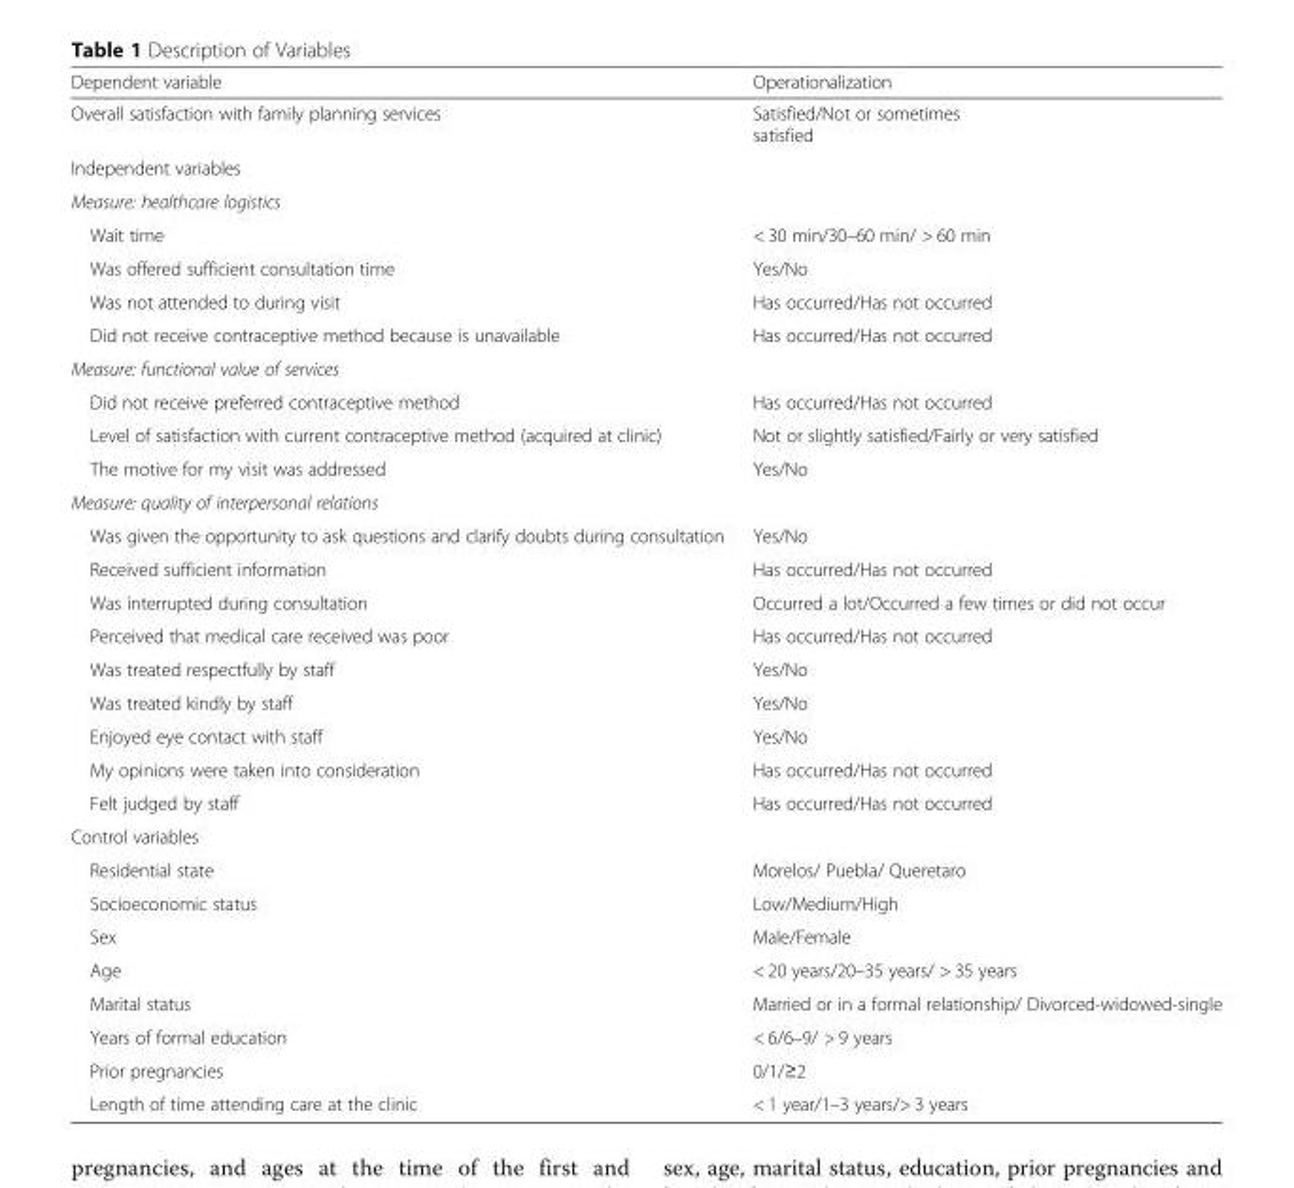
<table><thead><tr><td>Dependent variable</td><td>Operationalization</td></tr></thead><tbody><tr><td>Overall satisfaction with family planning services</td><td>Satisfied/Not or sometimes satisfied</td></tr><tr><td colspan="2">Independent variables</td></tr><tr><td colspan="2">Measure: healthcare logistics</td></tr><tr><td>Wait time</td><td>&lt; 30 min/30–60 min/ &gt; 60 min</td></tr><tr><td>Was offered sufficient consultation time</td><td>Yes/No</td></tr><tr><td>Was not attended to during visit</td><td>Has occurred/Has not occurred</td></tr><tr><td>Did not receive contraceptive method because is unavailable</td><td>Has occurred/Has not occurred</td></tr><tr><td colspan="2">Measure: functional value of services</td></tr><tr><td>Did not receive preferred contraceptive method</td><td>Has occurred/Has not occurred</td></tr><tr><td>Level of satisfaction with current contraceptive method (acquired at clinic)</td><td>Not or slightly satisfied/Fairly or very satisfied</td></tr><tr><td>The motive for my visit was addressed</td><td>Yes/No</td></tr><tr><td colspan="2">Measure: quality of interpersonal relations</td></tr><tr><td>Was given the opportunity to ask questions and clarify doubts during consultation</td><td>Yes/No</td></tr><tr><td>Received sufficient information</td><td>Has occurred/Has not occurred</td></tr><tr><td>Was interrupted during consultation</td><td>Occurred a lot/Occurred a few times or did not occur</td></tr><tr><td>Perceived that medical care received was poor</td><td>Has occurred/Has not occurred</td></tr><tr><td>Was treated respectfully by staff</td><td>Yes/No</td></tr><tr><td>Was treated kindly by staff</td><td>Yes/No</td></tr><tr><td>Enjoyed eye contact with staff</td><td>Yes/No</td></tr><tr><td>My opinions were taken into consideration</td><td>Has occurred/Has not occurred</td></tr><tr><td>Felt judged by staff</td><td>Has occurred/Has not occurred</td></tr><tr><td colspan="2">Control variables</td></tr><tr><td>Residential state</td><td>Morelos/ Puebla/ Queretaro</td></tr><tr><td>Socioeconomic status</td><td>Low/Medium/High</td></tr><tr><td>Sex</td><td>Male/Female</td></tr><tr><td>Age</td><td>&lt; 20 years/20–35 years/ &gt; 35 years</td></tr><tr><td>Marital status</td><td>Married or in a formal relationship/ Divorced-widowed-single</td></tr><tr><td>Years of formal education</td><td>&lt; 6/6–9/ &gt; 9 years</td></tr><tr><td>Prior pregnancies</td><td>0/1/≥2</td></tr><tr><td>Length of time attending care at the clinic</td><td>&lt; 1 year/1–3 years/&gt; 3 years</td></tr></tbody></table>